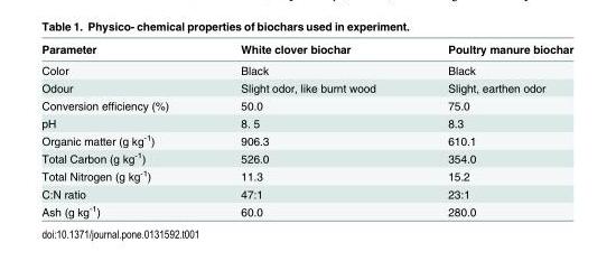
<table><thead><tr><td>Parameter</td><td>White clover biochar</td><td>Poultry manure biochar</td></tr></thead><tbody><tr><td>Color</td><td>Black</td><td>Black</td></tr><tr><td>Odour</td><td>Slight odor, like burnt wood</td><td>Slight, earthen odor</td></tr><tr><td>Conversion efficiency (%)</td><td>50.0</td><td>75.0</td></tr><tr><td>pH</td><td>8. 5</td><td>8.3</td></tr><tr><td>Organic matter (g kg<sup>-1</sup>)</td><td>906.3</td><td>610.1</td></tr><tr><td>Total Carbon (g kg<sup>-1</sup>)</td><td>526.0</td><td>354.0</td></tr><tr><td>Total Nitrogen (g kg<sup>-1</sup>)</td><td>11.3</td><td>15.2</td></tr><tr><td>C:N ratio</td><td>47:1</td><td>23:1</td></tr><tr><td>Ash (g kg<sup>-1</sup>)</td><td>60.0</td><td>280.0</td></tr></tbody></table>